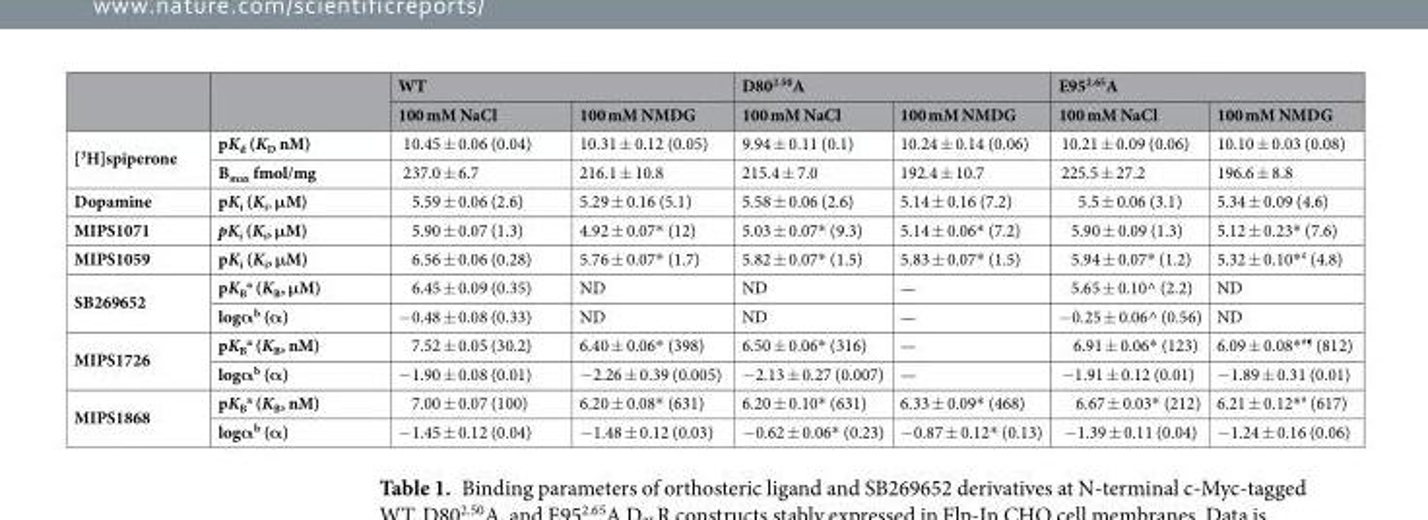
<table><thead><tr><td rowspan="2"></td><td rowspan="2"></td><td colspan="2">WT</td><td colspan="2">D80<sup>2.50</sup>A</td><td colspan="2">E95<sup>2.65</sup>A</td></tr><tr><td>100 mM NaCl</td><td>100 mM NMDG</td><td>100 mM NaCl</td><td>100 mM NMDG</td><td>100 mM NaCl</td><td>100 mM NMDG</td></tr></thead><tbody><tr><td rowspan="2">[<sup>3</sup>H]spiperone</td><td>pK<sub>d</sub> (K<sub>D</sub> nM)</td><td>10.45 ± 0.06 (0.04)</td><td>10.31 ± 0.12 (0.05)</td><td>9.94 ± 0.11 (0.1)</td><td>10.24 ± 0.14 (0.06)</td><td>10.21 ± 0.09 (0.06)</td><td>10.10 ± 0.03 (0.08)</td></tr><tr><td>B<sub>max</sub> fmol/mg</td><td>237.0 ± 6.7</td><td>216.1 ± 10.8</td><td>215.4 ± 7.0</td><td>192.4 ± 10.7</td><td>225.5 ± 27.2</td><td>196.6 ± 8.8</td></tr><tr><td>Dopamine</td><td>pK<sub>i</sub> (K<sub>i</sub>, μM)</td><td>5.59 ± 0.06 (2.6)</td><td>5.29 ± 0.16 (5.1)</td><td>5.58 ± 0.06 (2.6)</td><td>5.14 ± 0.16 (7.2)</td><td>5.5 ± 0.06 (3.1)</td><td>5.34 ± 0.09 (4.6)</td></tr><tr><td>MIPS1071</td><td>pK<sub>i</sub> (K<sub>i</sub>, μM)</td><td>5.90 ± 0.07 (1.3)</td><td>4.92 ± 0.07* (12)</td><td>5.03 ± 0.07* (9.3)</td><td>5.14 ± 0.06* (7.2)</td><td>5.90 ± 0.09 (1.3)</td><td>5.12 ± 0.23* (7.6)</td></tr><tr><td>MIPS1059</td><td>pK<sub>i</sub> (K<sub>i</sub>, μM)</td><td>6.56 ± 0.06 (0.28)</td><td>5.76 ± 0.07* (1.7)</td><td>5.82 ± 0.07* (1.5)</td><td>5.83 ± 0.07* (1.5)</td><td>5.94 ± 0.07* (1.2)</td><td>5.32 ± 0.10*<sup>#</sup> (4.8)</td></tr><tr><td rowspan="2">SB269652</td><td>pK<sub>B</sub> <sup>a</sup> (K<sub>B</sub>, μM)</td><td>6.45 ± 0.09 (0.35)</td><td>ND</td><td>ND</td><td>—</td><td>5.65 ± 0.10^ (2.2)</td><td>ND</td></tr><tr><td>logα<sup>b</sup> (α)</td><td>−0.48 ± 0.08 (0.33)</td><td>ND</td><td>ND</td><td>—</td><td>−0.25 ± 0.06^ (0.56)</td><td>ND</td></tr><tr><td rowspan="2">MIPS1726</td><td>pK<sub>B</sub> <sup>a</sup> (K<sub>B</sub>, nM)</td><td>7.52 ± 0.05 (30.2)</td><td>6.40 ± 0.06* (398)</td><td>6.50 ± 0.06* (316)</td><td>—</td><td>6.91 ± 0.06* (123)</td><td>6.09 ± 0.08*<sup>#¶</sup> (812)</td></tr><tr><td>logα<sup>b</sup> (α)</td><td>−1.90 ± 0.08 (0.01)</td><td>−2.26 ± 0.39 (0.005)</td><td>−2.13 ± 0.27 (0.007)</td><td>—</td><td>−1.91 ± 0.12 (0.01)</td><td>−1.89 ± 0.31 (0.01)</td></tr><tr><td rowspan="2">MIPS1868</td><td>pK<sub>B</sub> <sup>a</sup> (K<sub>B</sub>, nM)</td><td>7.00 ± 0.07 (100)</td><td>6.20 ± 0.08* (631)</td><td>6.20 ± 0.10* (631)</td><td>6.33 ± 0.09* (468)</td><td>6.67 ± 0.03* (212)</td><td>6.21 ± 0.12*<sup>#</sup> (617)</td></tr><tr><td>logα<sup>b</sup> (α)</td><td>−1.45 ± 0.12 (0.04)</td><td>−1.48 ± 0.12 (0.03)</td><td>−0.62 ± 0.06* (0.23)</td><td>−0.87 ± 0.12* (0.13)</td><td>−1.39 ± 0.11 (0.04)</td><td>−1.24 ± 0.16 (0.06)</td></tr></tbody></table>